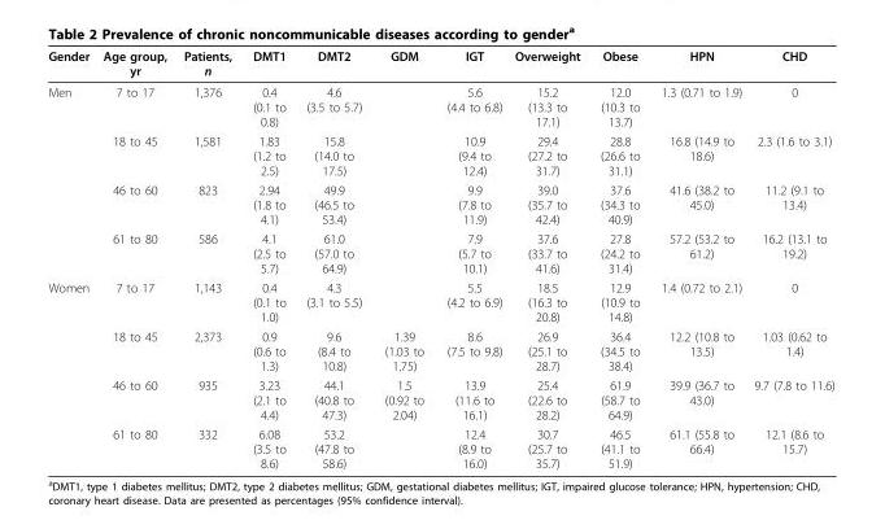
<table><thead><tr><td>Gender</td><td>Age group, yr</td><td>Patients, n</td><td>DMT1</td><td>DMT2</td><td>GDM</td><td>IGT</td><td>Overweight</td><td>Obese</td><td>HPN</td><td>CHD</td></tr></thead><tbody><tr><td rowspan="4">Men</td><td>7 to 17</td><td>1,376</td><td>0.4 (0.1 to 0.8)</td><td>4.6 (3.5 to 5.7)</td><td></td><td>5.6 (4.4 to 6.8)</td><td>15.2 (13.3 to 17.1)</td><td>12.0 (10.3 to 13.7)</td><td>1.3 (0.71 to 1.9)</td><td>0</td></tr><tr><td>18 to 45</td><td>1,581</td><td>1.83 (1.2 to 2.5)</td><td>15.8 (14.0 to 17.5)</td><td></td><td>10.9 (9.4 to 12.4)</td><td>29.4 (27.2 to 31.7)</td><td>28.8 (26.6 to 31.1)</td><td>16.8 (14.9 to 18.6)</td><td>2.3 (1.6 to 3.1)</td></tr><tr><td>46 to 60</td><td>823</td><td>2.94 (1.8 to 4.1)</td><td>49.9 (46.5 to 53.4)</td><td></td><td>9.9 (7.8 to 11.9)</td><td>39.0 (35.7 to 42.4)</td><td>37.6 (34.3 to 40.9)</td><td>41.6 (38.2 to 45.0)</td><td>11.2 (9.1 to 13.4)</td></tr><tr><td>61 to 80</td><td>586</td><td>4.1 (2.5 to 5.7)</td><td>61.0 (57.0 to 64.9)</td><td></td><td>7.9 (5.7 to 10.1)</td><td>37.6 (33.7 to 41.6)</td><td>27.8 (24.2 to 31.4)</td><td>57.2 (53.2 to 61.2)</td><td>16.2 (13.1 to 19.2)</td></tr><tr><td rowspan="4">Women</td><td>7 to 17</td><td>1,143</td><td>0.4 (0.1 to 1.0)</td><td>4.3 (3.1 to 5.5)</td><td></td><td>5.5 (4.2 to 6.9)</td><td>18.5 (16.3 to 20.8)</td><td>12.9 (10.9 to 14.8)</td><td>1.4 (0.72 to 2.1)</td><td>0</td></tr><tr><td>18 to 45</td><td>2,373</td><td>0.9 (0.6 to 1.3)</td><td>9.6 (8.4 to 10.8)</td><td>1.39 (1.03 to 1.75)</td><td>8.6 (7.5 to 9.8)</td><td>26.9 (25.1 to 28.7)</td><td>36.4 (34.5 to 38.4)</td><td>12.2 (10.8 to 13.5)</td><td>1.03 (0.62 to 1.4)</td></tr><tr><td>46 to 60</td><td>935</td><td>3.23 (2.1 to 4.4)</td><td>44.1 (40.8 to 47.3)</td><td>1.5 (0.92 to 2.04)</td><td>13.9 (11.6 to 16.1)</td><td>25.4 (22.6 to 28.2)</td><td>61.9 (58.7 to 64.9)</td><td>39.9 (36.7 to 43.0)</td><td>9.7 (7.8 to 11.6)</td></tr><tr><td>61 to 80</td><td>332</td><td>6.08 (3.5 to 8.6)</td><td>53.2 (47.8 to 58.6)</td><td></td><td>12.4 (8.9 to 16.0)</td><td>30.7 (25.7 to 35.7)</td><td>46.5 (41.1 to 51.9)</td><td>61.1 (55.8 to 66.4)</td><td>12.1 (8.6 to 15.7)</td></tr></tbody></table>